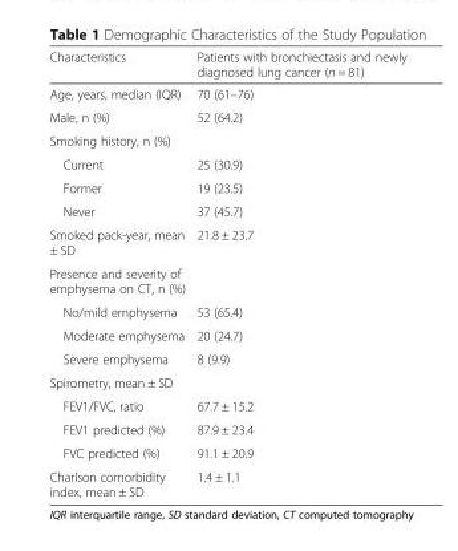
<table><thead><tr><td>Characteristics</td><td>Patients with bronchiectasis and newly diagnosed lung cancer (n = 81)</td></tr></thead><tbody><tr><td>Age, years, median (IQR)</td><td>70 (61–76)</td></tr><tr><td>Male, n (%)</td><td>52 (64.2)</td></tr><tr><td colspan="2">Smoking history, n (%)</td></tr><tr><td>Current</td><td>25 (30.9)</td></tr><tr><td>Former</td><td>19 (23.5)</td></tr><tr><td>Never</td><td>37 (45.7)</td></tr><tr><td>Smoked pack-year, mean ± SD</td><td>21.8 ± 23.7</td></tr><tr><td colspan="2">Presence and severity of emphysema on CT, n (%)</td></tr><tr><td>No/mild emphysema</td><td>53 (65.4)</td></tr><tr><td>Moderate emphysema</td><td>20 (24.7)</td></tr><tr><td>Severe emphysema</td><td>8 (9.9)</td></tr><tr><td colspan="2">Spirometry, mean ± SD</td></tr><tr><td>FEV1/FVC, ratio</td><td>67.7 ± 15.2</td></tr><tr><td>FEV1 predicted (%)</td><td>87.9 ± 23.4</td></tr><tr><td>FVC predicted (%)</td><td>91.1 ± 20.9</td></tr><tr><td>Charlson comorbidity index, mean ± SD</td><td>1.4 ± 1.1</td></tr></tbody></table>